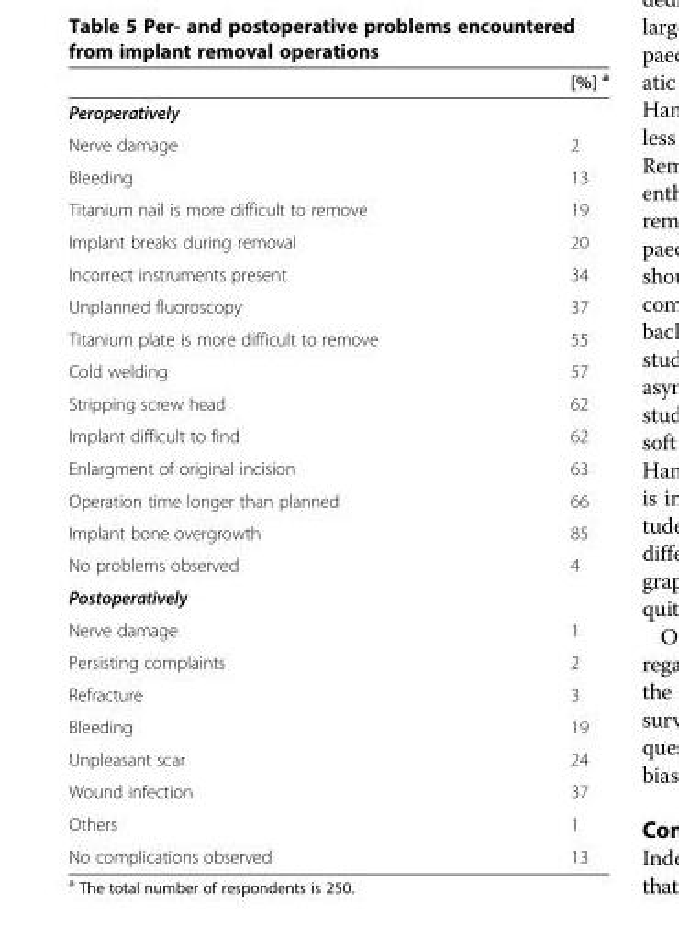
<table><thead><tr><td></td><td>[%] <sup>a</sup></td></tr></thead><tbody><tr><td colspan="2">Peroperatively</td></tr><tr><td>Nerve damage</td><td>2</td></tr><tr><td>Bleeding</td><td>13</td></tr><tr><td>Titanium nail is more difficult to remove</td><td>19</td></tr><tr><td>Implant breaks during removal</td><td>20</td></tr><tr><td>Incorrect instruments present</td><td>34</td></tr><tr><td>Unplanned fluoroscopy</td><td>37</td></tr><tr><td>Titanium plate is more difficult to remove</td><td>55</td></tr><tr><td>Cold welding</td><td>57</td></tr><tr><td>Stripping screw head</td><td>62</td></tr><tr><td>Implant difficult to find</td><td>62</td></tr><tr><td>Enlargment of original incision</td><td>63</td></tr><tr><td>Operation time longer than planned</td><td>66</td></tr><tr><td>Implant bone overgrowth</td><td>85</td></tr><tr><td>No problems observed</td><td>4</td></tr><tr><td colspan="2">Postoperatively</td></tr><tr><td>Nerve damage</td><td>1</td></tr><tr><td>Persisting complaints</td><td>2</td></tr><tr><td>Refracture</td><td>3</td></tr><tr><td>Bleeding</td><td>19</td></tr><tr><td>Unpleasant scar</td><td>24</td></tr><tr><td>Wound infection</td><td>37</td></tr><tr><td>Others</td><td>1</td></tr><tr><td>No complications observed</td><td>13</td></tr></tbody></table>